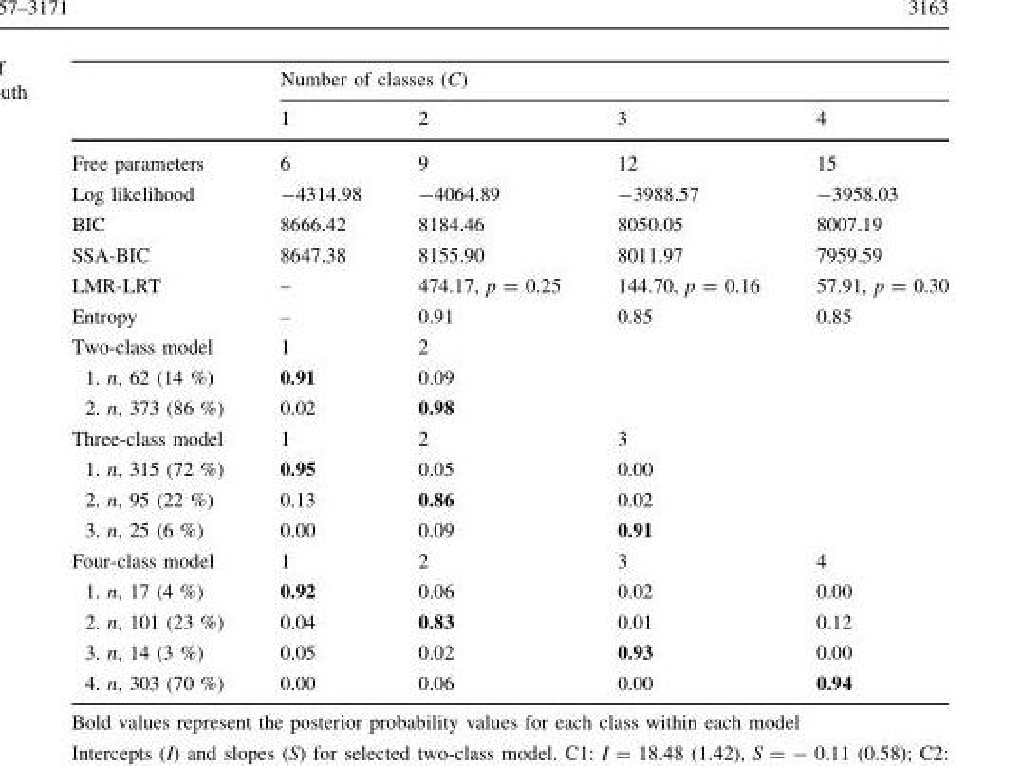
<table><thead><tr><td rowspan="2"></td><td colspan="4">Number of classes (C)</td></tr><tr><td>1</td><td>2</td><td>3</td><td>4</td></tr></thead><tbody><tr><td>Free parameters</td><td>6</td><td>9</td><td>12</td><td>15</td></tr><tr><td>Log likelihood</td><td>-4314.98</td><td>-4064.89</td><td>-3988.57</td><td>-3958.03</td></tr><tr><td>BIC</td><td>8666.42</td><td>8184.46</td><td>8050.05</td><td>8007.19</td></tr><tr><td>SSA-BIC</td><td>8647.38</td><td>8155.90</td><td>8011.97</td><td>7959.59</td></tr><tr><td>LMR-LRT</td><td>–</td><td>474.17, p = 0.25</td><td>144.70, p = 0.16</td><td>57.91, p = 0.30</td></tr><tr><td>Entropy</td><td>–</td><td>0.91</td><td>0.85</td><td>0.85</td></tr><tr><td>Two-class model</td><td>1</td><td>2</td><td></td><td></td></tr><tr><td>1. n, 62 (14 %)</td><td>0.91</td><td>0.09</td><td></td><td></td></tr><tr><td>2. n, 373 (86 %)</td><td>0.02</td><td>0.98</td><td></td><td></td></tr><tr><td>Three-class model</td><td>1</td><td>2</td><td>3</td><td></td></tr><tr><td>1. n, 315 (72 %)</td><td>0.95</td><td>0.05</td><td>0.00</td><td></td></tr><tr><td>2. n, 95 (22 %)</td><td>0.13</td><td>0.86</td><td>0.02</td><td></td></tr><tr><td>3. n, 25 (6 %)</td><td>0.00</td><td>0.09</td><td>0.91</td><td></td></tr><tr><td>Four-class model</td><td>1</td><td>2</td><td>3</td><td>4</td></tr><tr><td>1. n, 17 (4 %)</td><td>0.92</td><td>0.06</td><td>0.02</td><td>0.00</td></tr><tr><td>2. n, 101 (23 %)</td><td>0.04</td><td>0.83</td><td>0.01</td><td>0.12</td></tr><tr><td>3. n, 14 (3 %)</td><td>0.05</td><td>0.02</td><td>0.93</td><td>0.00</td></tr><tr><td>4. n, 303 (70 %)</td><td>0.00</td><td>0.06</td><td>0.00</td><td>0.94</td></tr></tbody></table>